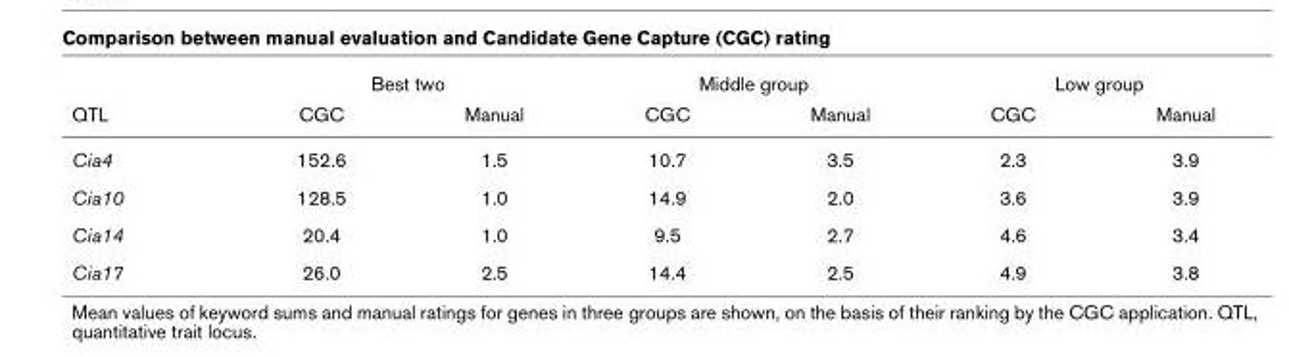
<table><thead><tr><td rowspan="2">QTL</td><td colspan="2">Best two</td><td colspan="2">Middle group</td><td colspan="2">Low group</td></tr><tr><td>CGC</td><td>Manual</td><td>CGC</td><td>Manual</td><td>CGC</td><td>Manual</td></tr></thead><tbody><tr><td>Cia4</td><td>152.6</td><td>1.5</td><td>10.7</td><td>3.5</td><td>2.3</td><td>3.9</td></tr><tr><td>Cia10</td><td>128.5</td><td>1.0</td><td>14.9</td><td>2.0</td><td>3.6</td><td>3.9</td></tr><tr><td>Cia14</td><td>20.4</td><td>1.0</td><td>9.5</td><td>2.7</td><td>4.6</td><td>3.4</td></tr><tr><td>Cia17</td><td>26.0</td><td>2.5</td><td>14.4</td><td>2.5</td><td>4.9</td><td>3.8</td></tr></tbody></table>